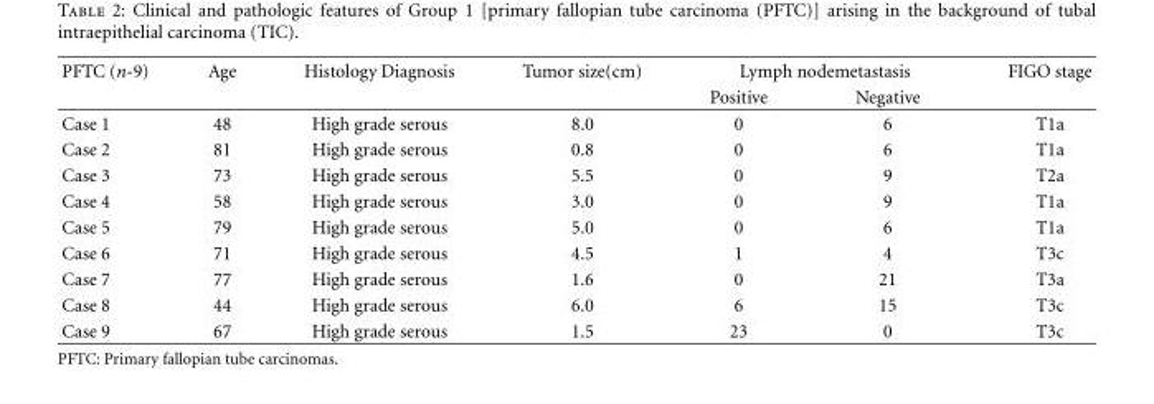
<table><thead><tr><td rowspan="2">PFTC (n-9)</td><td rowspan="2">Age</td><td rowspan="2">Histology Diagnosis</td><td rowspan="2">Tumor size(cm)</td><td colspan="2">Lymph nodemetastasis</td><td rowspan="2">FIGO stage</td></tr><tr><td>Positive</td><td>Negative</td></tr></thead><tbody><tr><td>Case 1</td><td>48</td><td>High grade serous</td><td>8.0</td><td>0</td><td>6</td><td>T1a</td></tr><tr><td>Case 2</td><td>81</td><td>High grade serous</td><td>0.8</td><td>0</td><td>6</td><td>T1a</td></tr><tr><td>Case 3</td><td>73</td><td>High grade serous</td><td>5.5</td><td>0</td><td>9</td><td>T2a</td></tr><tr><td>Case 4</td><td>58</td><td>High grade serous</td><td>3.0</td><td>0</td><td>9</td><td>T1a</td></tr><tr><td>Case 5</td><td>79</td><td>High grade serous</td><td>5.0</td><td>0</td><td>6</td><td>T1a</td></tr><tr><td>Case 6</td><td>71</td><td>High grade serous</td><td>4.5</td><td>1</td><td>4</td><td>T3c</td></tr><tr><td>Case 7</td><td>77</td><td>High grade serous</td><td>1.6</td><td>0</td><td>21</td><td>T3a</td></tr><tr><td>Case 8</td><td>44</td><td>High grade serous</td><td>6.0</td><td>6</td><td>15</td><td>T3c</td></tr><tr><td>Case 9</td><td>67</td><td>High grade serous</td><td>1.5</td><td>23</td><td>0</td><td>T3c</td></tr></tbody></table>